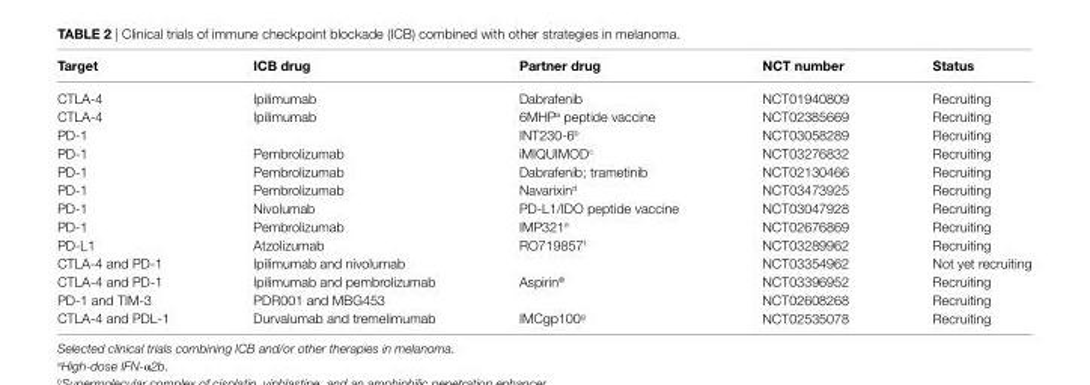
<table><thead><tr><td>Target</td><td>iCB drug</td><td>Partner drug</td><td>nCT number</td><td>Status</td></tr></thead><tbody><tr><td>CTLA-4</td><td>Ipilimumab</td><td>Dabrafenib</td><td>NCT01940809</td><td>Recruiting</td></tr><tr><td>CTLA-4</td><td>Ipilimumab</td><td>6MHP<sup>a</sup> peptide vaccine</td><td>NCT02385669</td><td>Recruiting</td></tr><tr><td>PD-1</td><td></td><td>INT230-6<sup>b</sup></td><td>NCT03058289</td><td>Recruiting</td></tr><tr><td>PD-1</td><td>Pembrolizumab</td><td>iMIQUIMOD<sup>c</sup></td><td>NCT03276832</td><td>Recruiting</td></tr><tr><td>PD-1</td><td>Pembrolizumab</td><td>Dabrafenib; trametinib</td><td>NCT02130466</td><td>Recruiting</td></tr><tr><td>PD-1</td><td>Pembrolizumab</td><td>Navarixin<sup>d</sup></td><td>NCT03473925</td><td>Recruiting</td></tr><tr><td>PD-1</td><td>Nivolumab</td><td>PD-L1/IDO peptide vaccine</td><td>NCT03047928</td><td>Recruiting</td></tr><tr><td>PD-1</td><td>Pembrolizumab</td><td>IMP321<sup>e</sup></td><td>NCT02676869</td><td>Recruiting</td></tr><tr><td>PD-L1</td><td>Atzolizumab</td><td>RO719857<sup>f</sup></td><td>NCT03289962</td><td>Recruiting</td></tr><tr><td>CTLA-4 and PD-1</td><td>Ipilimumab and nivolumab</td><td></td><td>NCT03354962</td><td>Not yet recruiting</td></tr><tr><td>CTLA-4 and PD-1</td><td>Ipilimumab and pembrolizumab</td><td>Aspirin<sup>®</sup></td><td>NCT03396952</td><td>Recruiting</td></tr><tr><td>PD-1 and TIM-3</td><td>PDR001 and MBG453</td><td></td><td>NCT02608268</td><td>Recruiting</td></tr><tr><td>CTLA-4 and PDL-1</td><td>Durvalumab and tremelimumab</td><td>IMCgp100<sup>g</sup></td><td>NCT02535078</td><td>Recruiting</td></tr></tbody></table>